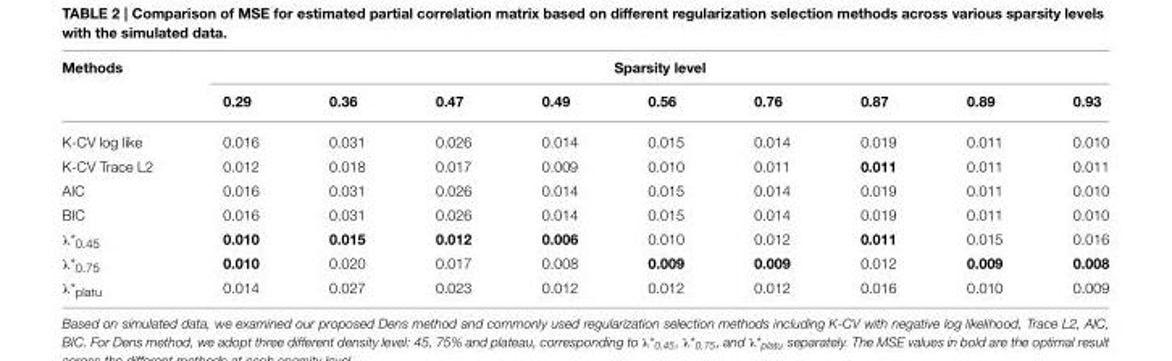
<table><thead><tr><td rowspan="2">Methods</td><td colspan="9">Sparsity level</td></tr><tr><td>0.29</td><td>0.36</td><td>0.47</td><td>0.49</td><td>0.56</td><td>0.76</td><td>0.87</td><td>0.89</td><td>0.93</td></tr></thead><tbody><tr><td>K-CV log like</td><td>0.016</td><td>0.031</td><td>0.026</td><td>0.014</td><td>0.015</td><td>0.014</td><td>0.019</td><td>0.011</td><td>0.010</td></tr><tr><td>K-CV Trace L2</td><td>0.012</td><td>0.018</td><td>0.017</td><td>0.009</td><td>0.010</td><td>0.011</td><td>0.011</td><td>0.011</td><td>0.011</td></tr><tr><td>AIC</td><td>0.016</td><td>0.031</td><td>0.026</td><td>0.014</td><td>0.015</td><td>0.014</td><td>0.019</td><td>0.011</td><td>0.010</td></tr><tr><td>BIC</td><td>0.016</td><td>0.031</td><td>0.026</td><td>0.014</td><td>0.015</td><td>0.014</td><td>0.019</td><td>0.011</td><td>0.010</td></tr><tr><td>λ*<sub>0.45</sub></td><td>0.010</td><td>0.015</td><td>0.012</td><td>0.006</td><td>0.010</td><td>0.012</td><td>0.011</td><td>0.015</td><td>0.016</td></tr><tr><td>λ*<sub>0.75</sub></td><td>0.010</td><td>0.020</td><td>0.017</td><td>0.008</td><td>0.009</td><td>0.009</td><td>0.012</td><td>0.009</td><td>0.008</td></tr><tr><td>λ*<sub>platu</sub></td><td>0.014</td><td>0.027</td><td>0.023</td><td>0.012</td><td>0.012</td><td>0.012</td><td>0.016</td><td>0.010</td><td>0.009</td></tr></tbody></table>